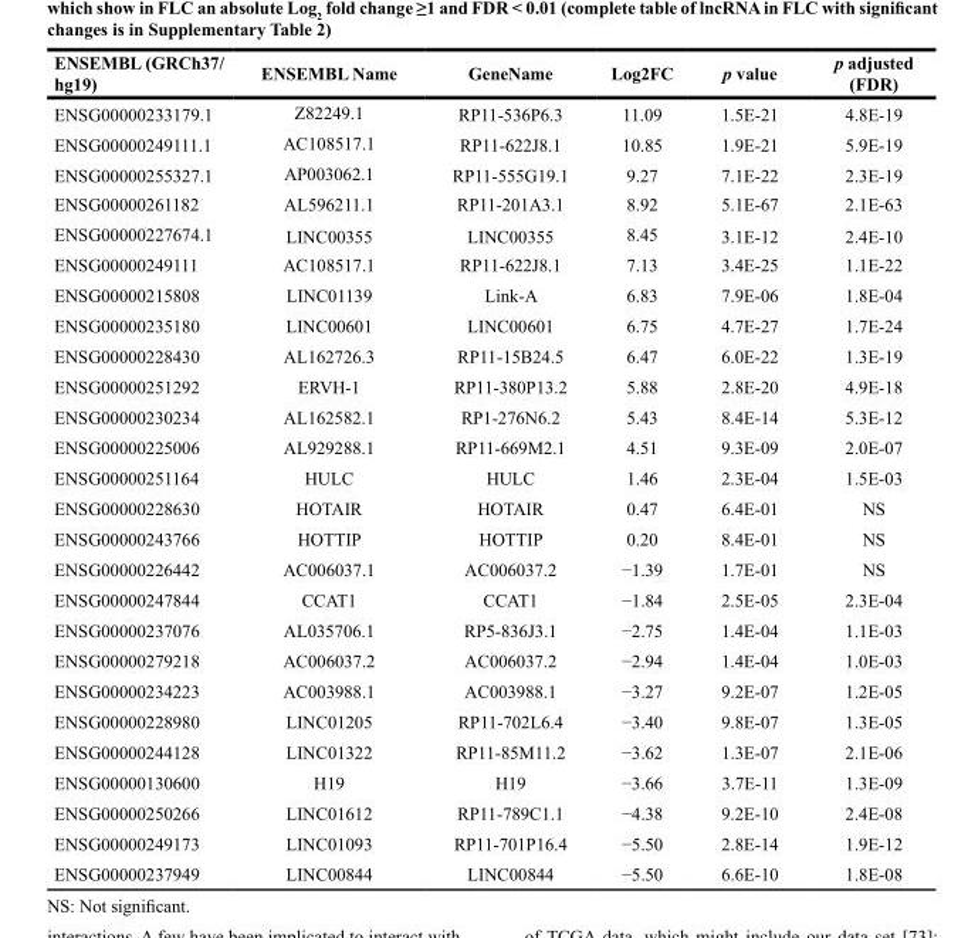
<table><thead><tr><td>ENSEMBL (GRCh37/ hg19)</td><td>ENSEMBL Name</td><td>GeneName</td><td>Log2FC</td><td>p value</td><td>p adjusted (FDR)</td></tr></thead><tbody><tr><td>ENSG00000233179.1</td><td>Z82249.1</td><td>RP11-536P6.3</td><td>11.09</td><td>1.5E-21</td><td>4.8E-19</td></tr><tr><td>ENSG00000249111.1</td><td>AC108517.1</td><td>RP11-622J8.1</td><td>10.85</td><td>1.9E-21</td><td>5.9E-19</td></tr><tr><td>ENSG00000255327.1</td><td>AP003062.1</td><td>RP11-555G19.1</td><td>9.27</td><td>7.1E-22</td><td>2.3E-19</td></tr><tr><td>ENSG00000261182</td><td>AL596211.1</td><td>RP11-201A3.1</td><td>8.92</td><td>5.1E-67</td><td>2.1E-63</td></tr><tr><td>ENSG00000227674.1</td><td>LINC00355</td><td>LINC00355</td><td>8.45</td><td>3.1E-12</td><td>2.4E-10</td></tr><tr><td>ENSG00000249111</td><td>AC108517.1</td><td>RP11-622J8.1</td><td>7.13</td><td>3.4E-25</td><td>1.1E-22</td></tr><tr><td>ENSG00000215808</td><td>LINC01139</td><td>Link-A</td><td>6.83</td><td>7.9E-06</td><td>1.8E-04</td></tr><tr><td>ENSG00000235180</td><td>LINC00601</td><td>LINC00601</td><td>6.75</td><td>4.7E-27</td><td>1.7E-24</td></tr><tr><td>ENSG00000228430</td><td>AL162726.3</td><td>RP11-15B24.5</td><td>6.47</td><td>6.0E-22</td><td>1.3E-19</td></tr><tr><td>ENSG00000251292</td><td>ERVH-1</td><td>RP11-380P13.2</td><td>5.88</td><td>2.8E-20</td><td>4.9E-18</td></tr><tr><td>ENSG00000230234</td><td>AL162582.1</td><td>RP1-276N6.2</td><td>5.43</td><td>8.4E-14</td><td>5.3E-12</td></tr><tr><td>ENSG00000225006</td><td>AL929288.1</td><td>RP11-669M2.1</td><td>4.51</td><td>9.3E-09</td><td>2.0E-07</td></tr><tr><td>ENSG00000251164</td><td>HULC</td><td>HULC</td><td>1.46</td><td>2.3E-04</td><td>1.5E-03</td></tr><tr><td>ENSG00000228630</td><td>HOTAIR</td><td>HOTAIR</td><td>0.47</td><td>6.4E-01</td><td>NS</td></tr><tr><td>ENSG00000243766</td><td>HOTTIP</td><td>HOTTIP</td><td>0.20</td><td>8.4E-01</td><td>NS</td></tr><tr><td>ENSG00000226442</td><td>AC006037.1</td><td>AC006037.2</td><td>−1.39</td><td>1.7E-01</td><td>NS</td></tr><tr><td>ENSG00000247844</td><td>CCAT1</td><td>CCAT1</td><td>−1.84</td><td>2.5E-05</td><td>2.3E-04</td></tr><tr><td>ENSG00000237076</td><td>AL035706.1</td><td>RP5-836J3.1</td><td>−2.75</td><td>1.4E-04</td><td>1.1E-03</td></tr><tr><td>ENSG00000279218</td><td>AC006037.2</td><td>AC006037.2</td><td>−2.94</td><td>1.4E-04</td><td>1.0E-03</td></tr><tr><td>ENSG00000234223</td><td>AC003988.1</td><td>AC003988.1</td><td>−3.27</td><td>9.2E-07</td><td>1.2E-05</td></tr><tr><td>ENSG00000228980</td><td>LINC01205</td><td>RP11-702L6.4</td><td>−3.40</td><td>9.8E-07</td><td>1.3E-05</td></tr><tr><td>ENSG00000244128</td><td>LINC01322</td><td>RP11-85M11.2</td><td>−3.62</td><td>1.3E-07</td><td>2.1E-06</td></tr><tr><td>ENSG00000130600</td><td>H19</td><td>H19</td><td>−3.66</td><td>3.7E-11</td><td>1.3E-09</td></tr><tr><td>ENSG00000250266</td><td>LINC01612</td><td>RP11-789C1.1</td><td>−4.38</td><td>9.2E-10</td><td>2.4E-08</td></tr><tr><td>ENSG00000249173</td><td>LINC01093</td><td>RP11-701P16.4</td><td>−5.50</td><td>2.8E-14</td><td>1.9E-12</td></tr><tr><td>ENSG00000237949</td><td>LINC00844</td><td>LINC00844</td><td>−5.50</td><td>6.6E-10</td><td>1.8E-08</td></tr></tbody></table>